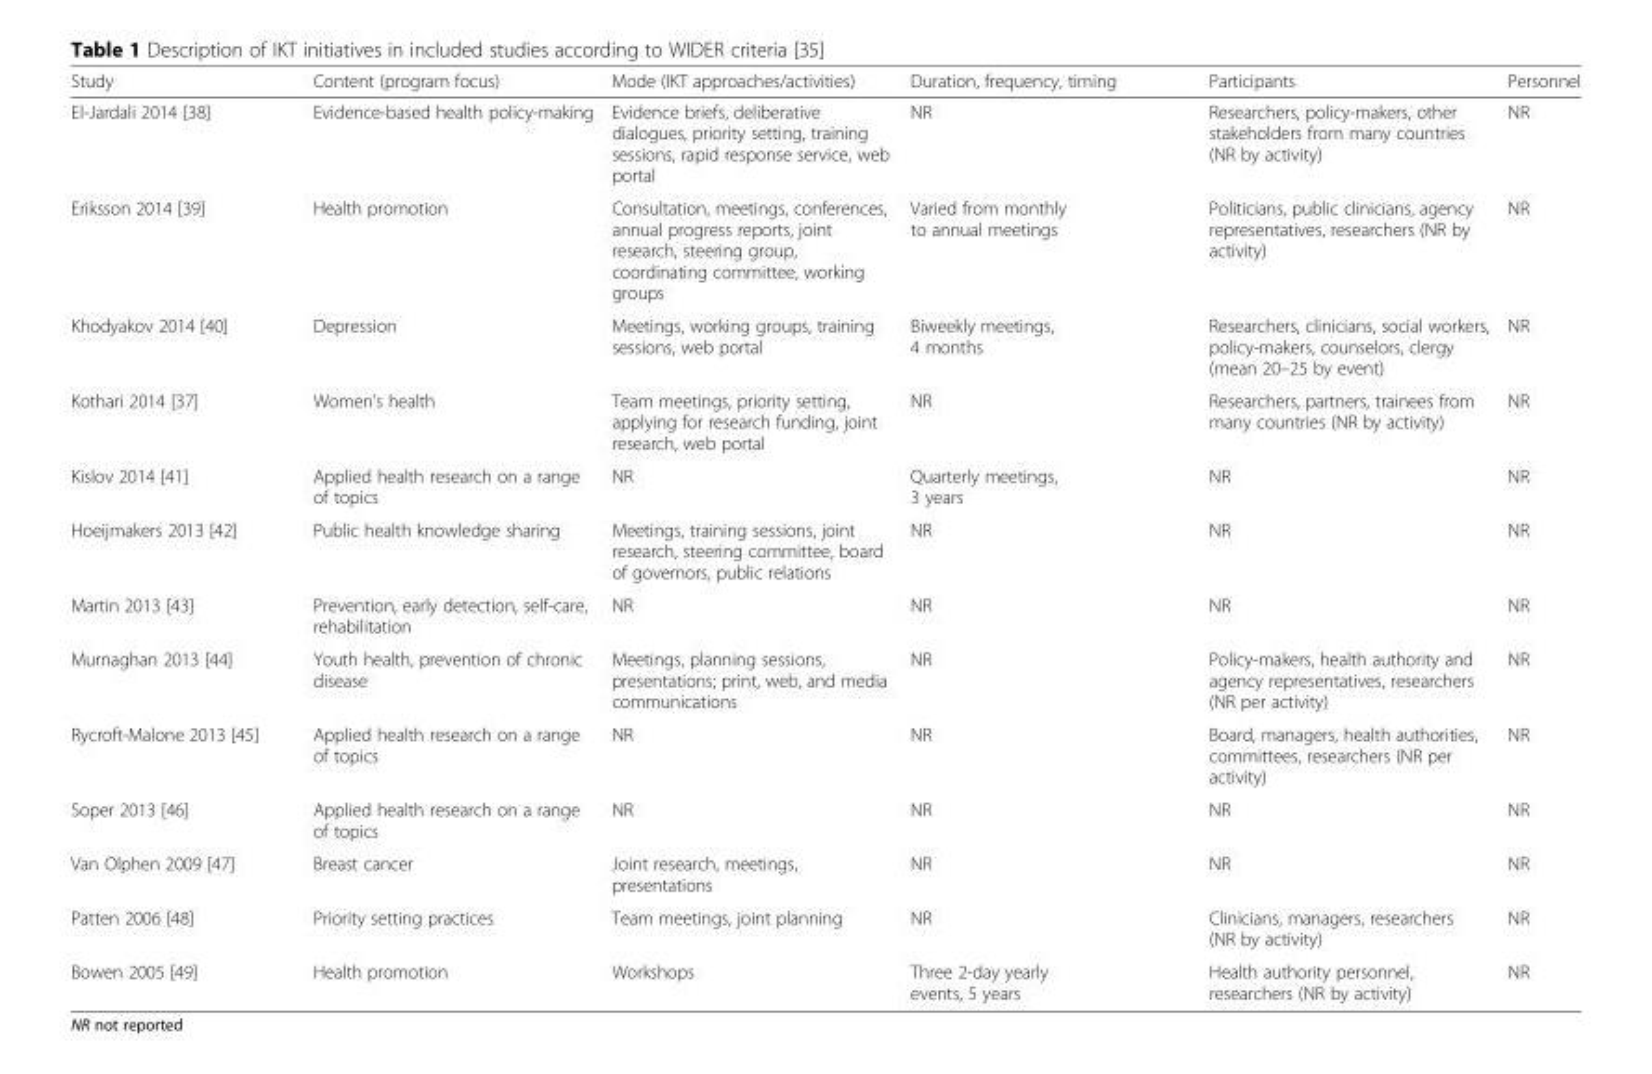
<table><thead><tr><td>Study</td><td>Content (program focus)</td><td>Mode (IKT approaches/activities)</td><td>Duration, frequency, timing</td><td>Participants</td><td>Personnel</td></tr></thead><tbody><tr><td>El-Jardali 2014 [38]</td><td>Evidence-based health policy-making</td><td>Evidence briefs, deliberative dialogues, priority setting, training sessions, rapid response service, web portal</td><td>NR</td><td>Researchers, policy-makers, other stakeholders from many countries (NR by activity)</td><td>NR</td></tr><tr><td>Eriksson 2014 [39]</td><td>Health promotion</td><td>Consultation, meetings, conferences, annual progress reports, joint research, steering group, coordinating committee, working groups</td><td>Varied from monthly to annual meetings</td><td>Politicians, public clinicians, agency representatives, researchers (NR by activity)</td><td>NR</td></tr><tr><td>Khodyakov 2014 [40]</td><td>Depression</td><td>Meetings, working groups, training sessions, web portal</td><td>Biweekly meetings, 4 months</td><td>Researchers, clinicians, social workers, policy-makers, counselors, clergy (mean 20–25 by event)</td><td>NR</td></tr><tr><td>Kothari 2014 [37]</td><td>Women’s health</td><td>Team meetings, priority setting, applying for research funding, joint research, web portal</td><td>NR</td><td>Researchers, partners, trainees from many countries (NR by activity)</td><td>NR</td></tr><tr><td>Kislov 2014 [41]</td><td>Applied health research on a range of topics</td><td>NR</td><td>Quarterly meetings, 3 years</td><td>NR</td><td>NR</td></tr><tr><td>Hoeijmakers 2013 [42]</td><td>Public health knowledge sharing</td><td>Meetings, training sessions, joint research, steering committee, board of governors, public relations</td><td>NR</td><td>NR</td><td>NR</td></tr><tr><td>Martin 2013 [43]</td><td>Prevention, early detection, self-care, rehabilitation</td><td>NR</td><td>NR</td><td>NR</td><td>NR</td></tr><tr><td>Murnaghan 2013 [44]</td><td>Youth health, prevention of chronic disease</td><td>Meetings, planning sessions, presentations; print, web, and media communications</td><td>NR</td><td>Policy-makers, health authority and agency representatives, researchers (NR per activity)</td><td>NR</td></tr><tr><td>Rycroft-Malone 2013 [45]</td><td>Applied health research on a range of topics</td><td>NR</td><td>NR</td><td>Board, managers, health authorities, committees, researchers (NR per activity)</td><td>NR</td></tr><tr><td>Soper 2013 [46]</td><td>Applied health research on a range of topics</td><td>NR</td><td>NR</td><td>NR</td><td>NR</td></tr><tr><td>Van Olphen 2009 [47]</td><td>Breast cancer</td><td>Joint research, meetings, presentations</td><td>NR</td><td>NR</td><td>NR</td></tr><tr><td>Patten 2006 [48]</td><td>Priority setting practices</td><td>Team meetings, joint planning</td><td>NR</td><td>Clinicians, managers, researchers (NR by activity)</td><td>NR</td></tr><tr><td>Bowen 2005 [49]</td><td>Health promotion</td><td>Workshops</td><td>Three 2-day yearly events, 5 years</td><td>Health authority personnel, researchers (NR by activity)</td><td>NR</td></tr></tbody></table>